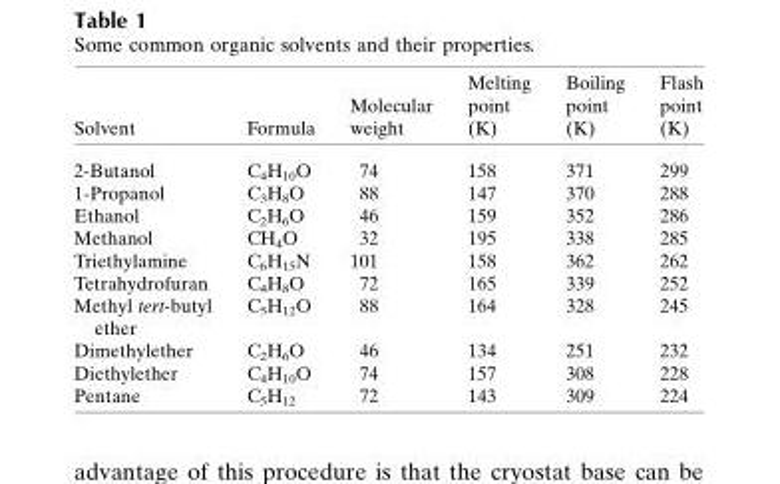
<table><thead><tr><td>Solvent</td><td>Formula</td><td>Molecular weight</td><td>Melting point (K)</td><td>Boiling point (K)</td><td>Flash point (K)</td></tr></thead><tbody><tr><td>2-Butanol</td><td>C<sub>4</sub>H<sub>10</sub>O</td><td>74</td><td>158</td><td>371</td><td>299</td></tr><tr><td>1-Propanol</td><td>C<sub>3</sub>H<sub>8</sub>O</td><td>88</td><td>147</td><td>370</td><td>288</td></tr><tr><td>Ethanol</td><td>C<sub>2</sub>H<sub>6</sub>O</td><td>46</td><td>159</td><td>352</td><td>286</td></tr><tr><td>Methanol</td><td>CH<sub>4</sub>O</td><td>32</td><td>195</td><td>338</td><td>285</td></tr><tr><td>Triethylamine</td><td>C<sub>6</sub>H<sub>15</sub>N</td><td>101</td><td>158</td><td>362</td><td>262</td></tr><tr><td>Tetrahydrofuran</td><td>C<sub>4</sub>H<sub>8</sub>O</td><td>72</td><td>165</td><td>339</td><td>252</td></tr><tr><td>Methyl tert-butyl ether</td><td>C<sub>5</sub>H<sub>12</sub>O</td><td>88</td><td>164</td><td>328</td><td>245</td></tr><tr><td>Dimethylether</td><td>C<sub>2</sub>H<sub>6</sub>O</td><td>46</td><td>134</td><td>251</td><td>232</td></tr><tr><td>Diethylether</td><td>C<sub>4</sub>H<sub>10</sub>O</td><td>74</td><td>157</td><td>308</td><td>228</td></tr><tr><td>Pentane</td><td>C<sub>5</sub>H<sub>12</sub></td><td>72</td><td>143</td><td>309</td><td>224</td></tr></tbody></table>